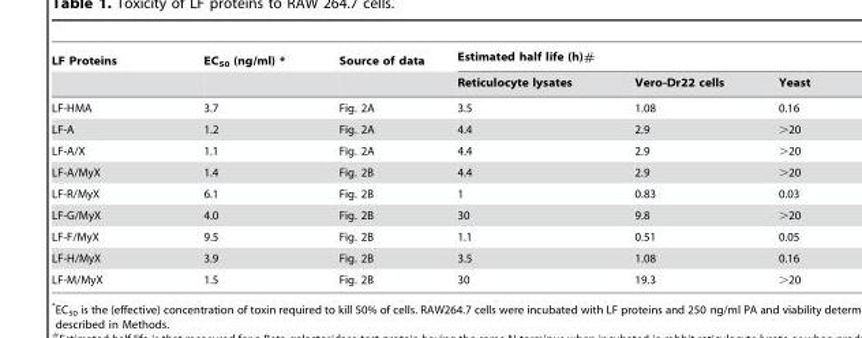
<table><thead><tr><td rowspan="2">LF Proteins</td><td rowspan="2">EC<sub>50</sub> (ng/ml) *</td><td rowspan="2">Source of data</td><td colspan="3">Estimated half life (h)#</td></tr><tr><td>Reticulocyte lysates</td><td>Vero-Dr22 cells</td><td>Yeast</td></tr></thead><tbody><tr><td>LF-HMA</td><td>3.7</td><td>Fig. 2A</td><td>3.5</td><td>1.08</td><td>0.16</td></tr><tr><td>LF-A</td><td>1.2</td><td>Fig. 2A</td><td>4.4</td><td>2.9</td><td>&gt;20</td></tr><tr><td>LF-A/X</td><td>1.1</td><td>Fig. 2A</td><td>4.4</td><td>2.9</td><td>&gt;20</td></tr><tr><td>LF-A/MyX</td><td>1.4</td><td>Fig. 2B</td><td>4.4</td><td>2.9</td><td>&gt;20</td></tr><tr><td>LF-R/MyX</td><td>6.1</td><td>Fig. 2B</td><td>1</td><td>0.83</td><td>0.03</td></tr><tr><td>LF-G/MyX</td><td>4.0</td><td>Fig. 2B</td><td>30</td><td>9.8</td><td>&gt;20</td></tr><tr><td>LF-F/MyX</td><td>9.5</td><td>Fig. 2B</td><td>1.1</td><td>0.51</td><td>0.05</td></tr><tr><td>LF-H/MyX</td><td>3.9</td><td>Fig. 2B</td><td>3.5</td><td>1.08</td><td>0.16</td></tr><tr><td>LF-M/MyX</td><td>1.5</td><td>Fig. 2B</td><td>30</td><td>19.3</td><td>&gt;20</td></tr></tbody></table>